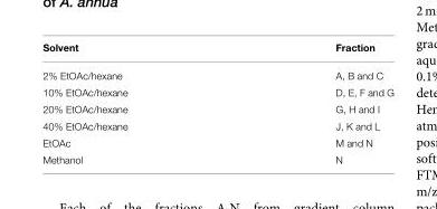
<table><thead><tr><td>Solvent</td><td>Fraction</td></tr></thead><tbody><tr><td>2% EtOAc/hexane</td><td>A, B and C</td></tr><tr><td>10% EtOAc/hexane</td><td>D, E, F and G</td></tr><tr><td>20% EtOAc/hexane</td><td>G, H and I</td></tr><tr><td>40% EtOAc/hexane</td><td>J, K and L</td></tr><tr><td>EtOAc</td><td>M and N</td></tr><tr><td>Methanol</td><td>N</td></tr></tbody></table>